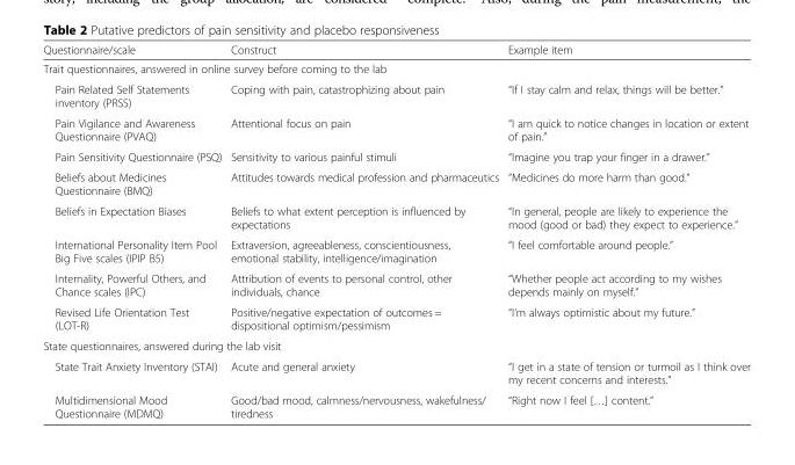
<table><thead><tr><td>Questionnaire/scale</td><td>Construct</td><td>Example item</td></tr></thead><tbody><tr><td colspan="3">Trait questionnaires, answered in online survey before coming to the lab</td></tr><tr><td>Pain Related Self Statements inventory (PRSS)</td><td>Coping with pain, catastrophizing about pain</td><td>“If I stay calm and relax, things will be better.”</td></tr><tr><td>Pain Vigilance and Awareness Questionnaire (PVAQ)</td><td>Attentional focus on pain</td><td>“I am quick to notice changes in location or extent of pain.”</td></tr><tr><td>Pain Sensitivity Questionnaire (PSQ)</td><td>Sensitivity to various painful stimuli</td><td>“Imagine you trap your finger in a drawer.”</td></tr><tr><td>Beliefs about Medicines Questionnaire (BMQ)</td><td>Attitudes towards medical profession and pharmaceutics</td><td>“Medicines do more harm than good.”</td></tr><tr><td>Beliefs in Expectation Biases</td><td>Beliefs to what extent perception is influenced by expectations</td><td>“In general, people are likely to experience the mood (good or bad) they expect to experience.”</td></tr><tr><td>International Personality Item Pool Big Five scales (IPIP B5)</td><td>Extraversion, agreeableness, conscientiousness, emotional stability, intelligence/imagination</td><td>“I feel comfortable around people.”</td></tr><tr><td>Internality, Powerful Others, and Chance scales (IPC)</td><td>Attribution of events to personal control, other individuals, chance</td><td>“Whether people act according to my wishes depends mainly on myself.”</td></tr><tr><td>Revised Life Orientation Test (LOT-R)</td><td>Positive/negative expectation of outcomes = dispositional optimism/pessimism</td><td>“I’m always optimistic about my future.”</td></tr><tr><td colspan="3">State questionnaires, answered during the lab visit</td></tr><tr><td>State Trait Anxiety Inventory (STAI)</td><td>Acute and general anxiety</td><td>“I get in a state of tension or turmoil as I think over my recent concerns and interests.”</td></tr><tr><td>Multidimensional Mood Questionnaire (MDMQ)</td><td>Good/bad mood, calmness/nervousness, wakefulness/ tiredness</td><td>“Right now I feel […] content.”</td></tr></tbody></table>